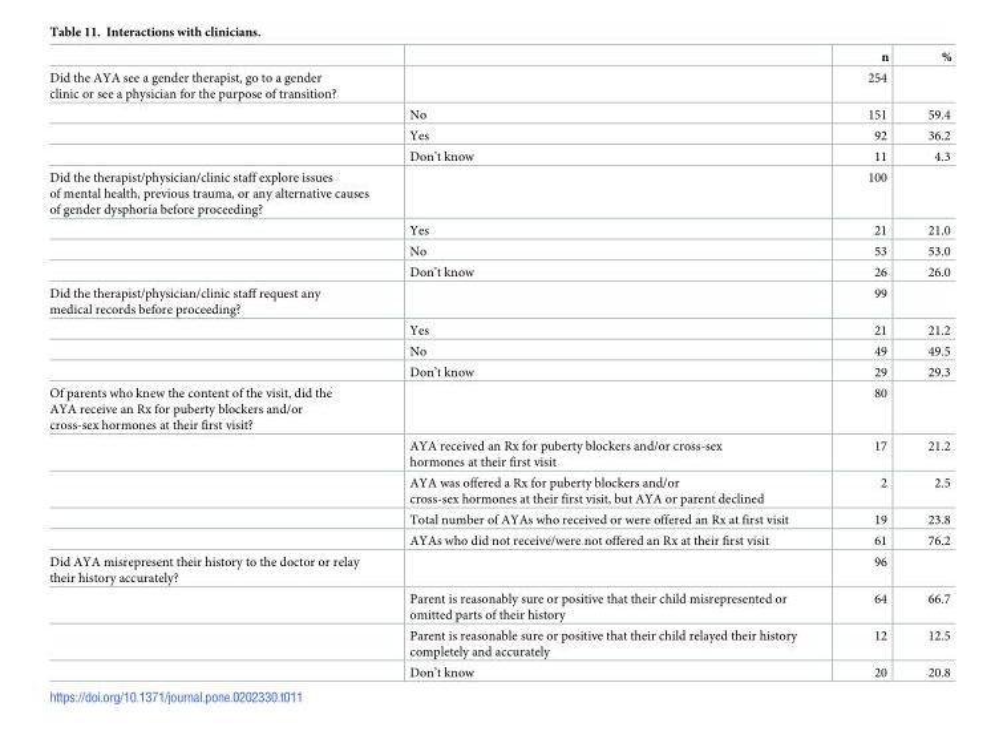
<table><thead><tr><td></td><td></td><td>n</td><td>%</td></tr></thead><tbody><tr><td rowspan="4">Did the AYA see a gender therapist, go to a gender clinic or see a physician for the purpose of transition?</td><td></td><td>254</td><td></td></tr><tr><td>No</td><td>151</td><td>59.4</td></tr><tr><td>Yes</td><td>92</td><td>36.2</td></tr><tr><td>Don’t know</td><td>11</td><td>4.3</td></tr><tr><td rowspan="4">Did the therapist/physician/clinic staff explore issues of mental health, previous trauma, or any alternative causes of gender dysphoria before proceeding?</td><td></td><td>100</td><td></td></tr><tr><td>Yes</td><td>21</td><td>21.0</td></tr><tr><td>No</td><td>53</td><td>53.0</td></tr><tr><td>Don’t know</td><td>26</td><td>26.0</td></tr><tr><td rowspan="4">Did the therapist/physician/clinic staff request any medical records before proceeding?</td><td></td><td>99</td><td></td></tr><tr><td>Yes</td><td>21</td><td>21.2</td></tr><tr><td>No</td><td>49</td><td>49.5</td></tr><tr><td>Don’t know</td><td>29</td><td>29.3</td></tr><tr><td rowspan="5">Of parents who knew the content of the visit, did the AYA receive an Rx for puberty blockers and/or cross-sex hormones at their first visit?</td><td></td><td>80</td><td></td></tr><tr><td>AYA received an Rx for puberty blockers and/or cross-sex hormones at their first visit</td><td>17</td><td>21.2</td></tr><tr><td>AYA was offered a Rx for puberty blockers and/or cross-sex hormones at their first visit, but AYA or parent declined</td><td>2</td><td>2.5</td></tr><tr><td>Total number of AYAs who received or were offered an Rx at first visit</td><td>19</td><td>23.8</td></tr><tr><td>AYAs who did not receive/were not offered an Rx at their first visit</td><td>61</td><td>76.2</td></tr><tr><td rowspan="4">Did AYA misrepresent their history to the doctor or relay their history accurately?</td><td></td><td>96</td><td></td></tr><tr><td>Parent is reasonably sure or positive that their child misrepresented or omitted parts of their history</td><td>64</td><td>66.7</td></tr><tr><td>Parent is reasonable sure or positive that their child relayed their history completely and accurately</td><td>12</td><td>12.5</td></tr><tr><td>Don’t know</td><td>20</td><td>20.8</td></tr></tbody></table>